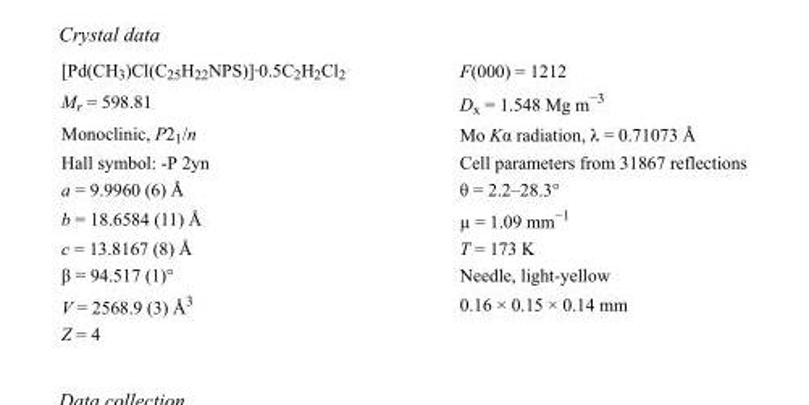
<table><tbody><tr><td>[Pd(CH<sub>3</sub>)Cl(C<sub>25</sub>H<sub>22</sub>NPS)]·0.5C<sub>2</sub>H<sub>2</sub>Cl<sub>2</sub></td><td>F(000) = 1212</td></tr><tr><td>M<sub>r</sub> = 598.81</td><td>D<sub>x</sub> = 1.548 Mg m<sup>−3</sup></td></tr><tr><td>Monoclinic, P2<sub>1</sub>/n</td><td>Mo Kα radiation, λ = 0.71073 Å</td></tr><tr><td>Hall symbol: -P 2yn</td><td>Cell parameters from 31867 reflections</td></tr><tr><td>a = 9.9960 (6) Å</td><td>θ = 2.2–28.3°</td></tr><tr><td>b = 18.6584 (11) Å</td><td>µ = 1.09 mm<sup>−1</sup></td></tr><tr><td>c = 13.8167 (8) Å</td><td>T = 173 K</td></tr><tr><td>β = 94.517 (1)°</td><td>Needle, light-yellow</td></tr><tr><td>V = 2568.9 (3) Å<sup>3</sup></td><td>0.16 × 0.15 × 0.14 mm</td></tr><tr><td>Z = 4</td><td></td></tr></tbody></table>